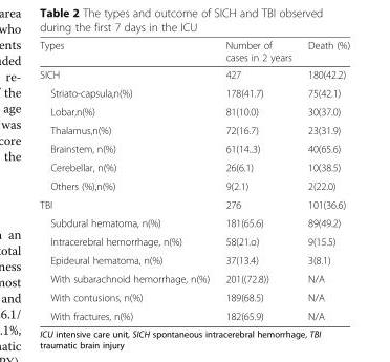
<table><thead><tr><td>Types</td><td>Number of cases in 2 years</td><td>Death (%)</td></tr></thead><tbody><tr><td>SICH</td><td>427</td><td>180(42.2)</td></tr><tr><td>Striato-capsula,n(%)</td><td>178(41.7)</td><td>75(42.1)</td></tr><tr><td>Lobar,n(%)</td><td>81(10.0)</td><td>30(37.0)</td></tr><tr><td>Thalamus,n(%)</td><td>72(16.7)</td><td>23(31.9)</td></tr><tr><td>Brainstem, n(%)</td><td>61(14..3)</td><td>40(65.6)</td></tr><tr><td>Cerebellar, n(%)</td><td>26(6.1)</td><td>10(38.5)</td></tr><tr><td>Others (%),n(%)</td><td>9(2.1)</td><td>2(22.0)</td></tr><tr><td>TBI</td><td>276</td><td>101(36.6)</td></tr><tr><td>Subdural hematoma, n(%)</td><td>181(65.6)</td><td>89(49.2)</td></tr><tr><td>Intracerebral hemorrhage, n(%)</td><td>58(21.o)</td><td>9(15.5)</td></tr><tr><td>Epideural hematoma, n(%)</td><td>37(13.4)</td><td>3(8.1)</td></tr><tr><td>With subarachnoid hemorrhage, n(%)</td><td>201((72.8))</td><td>N/A</td></tr><tr><td>With contusions, n(%)</td><td>189(68.5)</td><td>N/A</td></tr><tr><td>With fractures, n(%)</td><td>182(65.9)</td><td>N/A</td></tr></tbody></table>